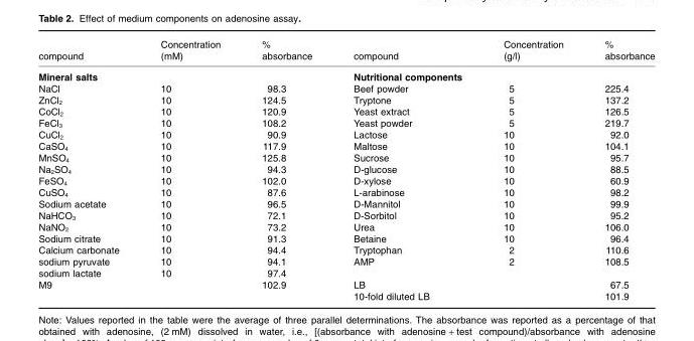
<table><thead><tr><td>compound</td><td>Concentration (mM)</td><td>% absorbance</td><td>compound</td><td>Concentration (g/l)</td><td>% absorbance</td></tr></thead><tbody><tr><td>Mineral salts</td><td></td><td></td><td>Nutritional components</td><td></td><td></td></tr><tr><td>NaCl</td><td>10</td><td>98.3</td><td>Beef powder</td><td>5</td><td>225.4</td></tr><tr><td>ZnCl<sub>2</sub></td><td>10</td><td>124.5</td><td>Tryptone</td><td>5</td><td>137.2</td></tr><tr><td>CoCl<sub>2</sub></td><td>10</td><td>120.9</td><td>Yeast extract</td><td>5</td><td>126.5</td></tr><tr><td>FeCl<sub>3</sub></td><td>10</td><td>108.2</td><td>Yeast powder</td><td>5</td><td>219.7</td></tr><tr><td>CuCl<sub>2</sub></td><td>10</td><td>90.9</td><td>Lactose</td><td>10</td><td>92.0</td></tr><tr><td>CaSO<sub>4</sub></td><td>10</td><td>117.9</td><td>Maltose</td><td>10</td><td>104.1</td></tr><tr><td>MnSO<sub>4</sub></td><td>10</td><td>125.8</td><td>Sucrose</td><td>10</td><td>95.7</td></tr><tr><td>Na<sub>2</sub>SO<sub>4</sub></td><td>10</td><td>94.3</td><td>D-glucose</td><td>10</td><td>88.5</td></tr><tr><td>FeSO<sub>4</sub></td><td>10</td><td>102.0</td><td>D-xylose</td><td>10</td><td>60.9</td></tr><tr><td>CuSO<sub>4</sub></td><td>10</td><td>87.6</td><td>L-arabinose</td><td>10</td><td>98.2</td></tr><tr><td>Sodium acetate</td><td>10</td><td>96.5</td><td>D-Mannitol</td><td>10</td><td>99.9</td></tr><tr><td>NaHCO<sub>3</sub></td><td>10</td><td>72.1</td><td>D-Sorbitol</td><td>10</td><td>95.2</td></tr><tr><td>NaNO<sub>2</sub></td><td>10</td><td>73.2</td><td>Urea</td><td>10</td><td>106.0</td></tr><tr><td>Sodium citrate</td><td>10</td><td>91.3</td><td>Betaine</td><td>10</td><td>96.4</td></tr><tr><td>Calcium carbonate</td><td>10</td><td>94.4</td><td>Tryptophan</td><td>2</td><td>110.6</td></tr><tr><td>sodium pyruvate</td><td>10</td><td>94.1</td><td>AMP</td><td>2</td><td>108.5</td></tr><tr><td>sodium lactate</td><td>10</td><td>97.4</td><td></td><td></td><td></td></tr><tr><td rowspan="2">M9</td><td></td><td>102.9</td><td>LB</td><td></td><td>67.5</td></tr><tr><td></td><td></td><td>10-fold diluted LB</td><td></td><td>101.9</td></tr></tbody></table>